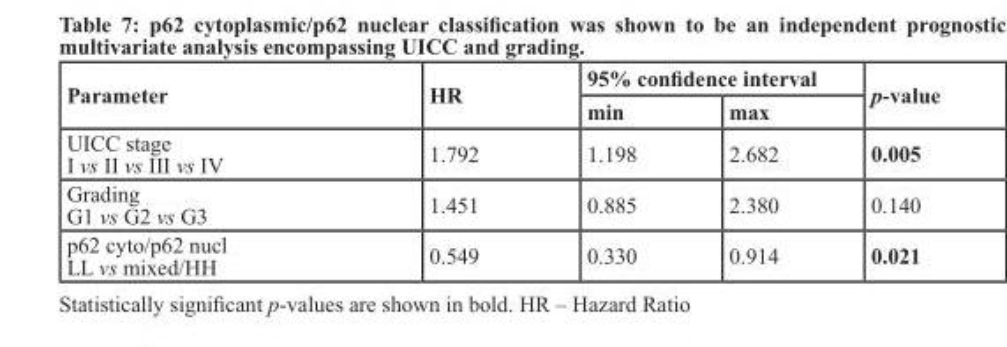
<table><thead><tr><td rowspan="2">Parameter</td><td rowspan="2">Hr</td><td colspan="2">95% confidence interval</td><td rowspan="2">p-value</td></tr><tr><td>min</td><td>max</td></tr></thead><tbody><tr><td>UICC stage I vs II vs III vs IV</td><td>1.792</td><td>1.198</td><td>2.682</td><td>0.005</td></tr><tr><td>Grading G1 vs G2 vs G3</td><td>1.451</td><td>0.885</td><td>2.380</td><td>0.140</td></tr><tr><td>p62 cyto/p62 nucl LL vs mixed/HH</td><td>0.549</td><td>0.330</td><td>0.914</td><td>0.021</td></tr></tbody></table>